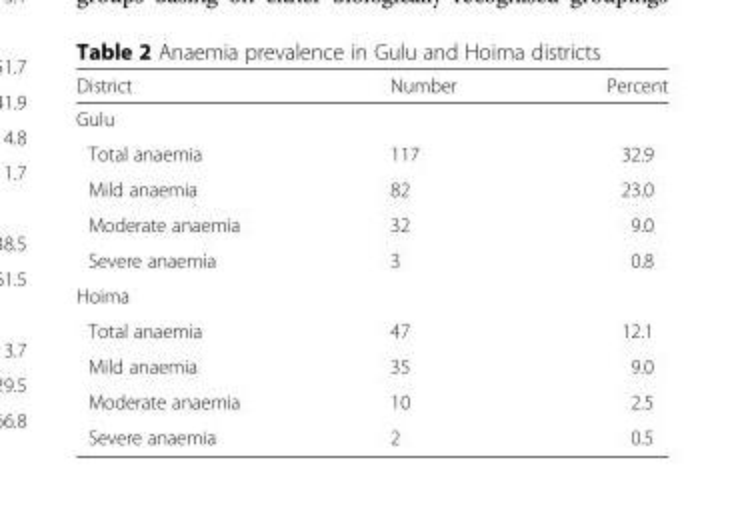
<table><thead><tr><td>District</td><td>Number</td><td>Percent</td></tr></thead><tbody><tr><td colspan="3">Gulu</td></tr><tr><td>Total anaemia</td><td>117</td><td>32.9</td></tr><tr><td>Mild anaemia</td><td>82</td><td>23.0</td></tr><tr><td>Moderate anaemia</td><td>32</td><td>9.0</td></tr><tr><td>Severe anaemia</td><td>3</td><td>0.8</td></tr><tr><td colspan="3">Hoima</td></tr><tr><td>Total anaemia</td><td>47</td><td>12.1</td></tr><tr><td>Mild anaemia</td><td>35</td><td>9.0</td></tr><tr><td>Moderate anaemia</td><td>10</td><td>2.5</td></tr><tr><td>Severe anaemia</td><td>2</td><td>0.5</td></tr></tbody></table>